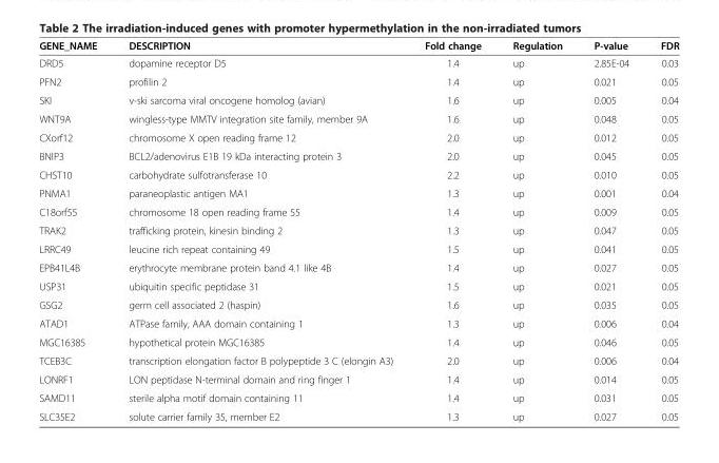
<table><thead><tr><td>GENE_NAME</td><td>DESCRIPTION</td><td>Fold change</td><td>Regulation</td><td>P-value</td><td>FDR</td></tr></thead><tbody><tr><td>DRD5</td><td>dopamine receptor D5</td><td>1.4</td><td>up</td><td>2.85E-04</td><td>0.03</td></tr><tr><td>PFN2</td><td>profilin 2</td><td>1.4</td><td>up</td><td>0.021</td><td>0.05</td></tr><tr><td>SKI</td><td>v-ski sarcoma viral oncogene homolog (avian)</td><td>1.6</td><td>up</td><td>0.005</td><td>0.04</td></tr><tr><td>WNT9A</td><td>wingless-type MMTV integration site family, member 9A</td><td>1.6</td><td>up</td><td>0.048</td><td>0.05</td></tr><tr><td>CXorf12</td><td>chromosome X open reading frame 12</td><td>2.0</td><td>up</td><td>0.012</td><td>0.05</td></tr><tr><td>BNIP3</td><td>BCL2/adenovirus E1B 19 kDa interacting protein 3</td><td>2.0</td><td>up</td><td>0.045</td><td>0.05</td></tr><tr><td>CHST10</td><td>carbohydrate sulfotransferase 10</td><td>2.2</td><td>up</td><td>0.010</td><td>0.05</td></tr><tr><td>PNMA1</td><td>paraneoplastic antigen MA1</td><td>1.3</td><td>up</td><td>0.001</td><td>0.04</td></tr><tr><td>C18orf55</td><td>chromosome 18 open reading frame 55</td><td>1.4</td><td>up</td><td>0.009</td><td>0.05</td></tr><tr><td>TRAK2</td><td>trafficking protein, kinesin binding 2</td><td>1.3</td><td>up</td><td>0.047</td><td>0.05</td></tr><tr><td>LRRC49</td><td>leucine rich repeat containing 49</td><td>1.5</td><td>up</td><td>0.041</td><td>0.05</td></tr><tr><td>EPB41L4B</td><td>erythrocyte membrane protein band 4.1 like 4B</td><td>1.4</td><td>up</td><td>0.027</td><td>0.05</td></tr><tr><td>USP31</td><td>ubiquitin specific peptidase 31</td><td>1.5</td><td>up</td><td>0.021</td><td>0.05</td></tr><tr><td>GSG2</td><td>germ cell associated 2 (haspin)</td><td>1.6</td><td>up</td><td>0.035</td><td>0.05</td></tr><tr><td>ATAD1</td><td>ATPase family, AAA domain containing 1</td><td>1.3</td><td>up</td><td>0.006</td><td>0.04</td></tr><tr><td>MGC16385</td><td>hypothetical protein MGC16385</td><td>1.4</td><td>up</td><td>0.046</td><td>0.05</td></tr><tr><td>TCEB3C</td><td>transcription elongation factor B polypeptide 3 C (elongin A3)</td><td>2.0</td><td>up</td><td>0.006</td><td>0.04</td></tr><tr><td>LONRF1</td><td>LON peptidase N-terminal domain and ring finger 1</td><td>1.4</td><td>up</td><td>0.014</td><td>0.05</td></tr><tr><td>SAMD11</td><td>sterile alpha motif domain containing 11</td><td>1.4</td><td>up</td><td>0.031</td><td>0.05</td></tr><tr><td>SLC35E2</td><td>solute carrier family 35, member E2</td><td>1.3</td><td>up</td><td>0.027</td><td>0.05</td></tr></tbody></table>